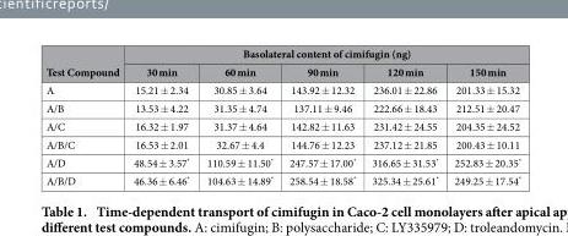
<table><thead><tr><td rowspan="2">Test Compound</td><td colspan="5">Basolateral content of cimifugin (ng)</td></tr><tr><td>30 min</td><td>60 min</td><td>90 min</td><td>120 min</td><td>150 min</td></tr></thead><tbody><tr><td>A</td><td>15.21 ± 2.34</td><td>30.85 ± 3.64</td><td>143.92 ± 12.32</td><td>236.01 ± 22.86</td><td>201.33 ± 15.32</td></tr><tr><td>A/B</td><td>13.53 ± 4.22</td><td>31.35 ± 4.74</td><td>137.11 ± 9.46</td><td>222.66 ± 18.43</td><td>212.51 ± 20.47</td></tr><tr><td>A/C</td><td>16.32 ± 1.97</td><td>31.37 ± 4.64</td><td>142.82 ± 11.63</td><td>231.42 ± 24.55</td><td>204.35 ± 24.52</td></tr><tr><td>A/B/C</td><td>16.53 ± 2.01</td><td>32.67 ± 4.4</td><td>144.76 ± 12.23</td><td>237.12 ± 21.85</td><td>200.43 ± 10.11</td></tr><tr><td>A/D</td><td>48.54 ± 3.57*</td><td>110.59 ± 11.50*</td><td>247.57 ± 17.00*</td><td>316.65 ± 31.53*</td><td>252.83 ± 20.35*</td></tr><tr><td>A/B/D</td><td>46.36 ± 6.46*</td><td>104.63 ± 14.89*</td><td>258.54 ± 18.58*</td><td>325.34 ± 25.61*</td><td>249.25 ± 17.54*</td></tr></tbody></table>